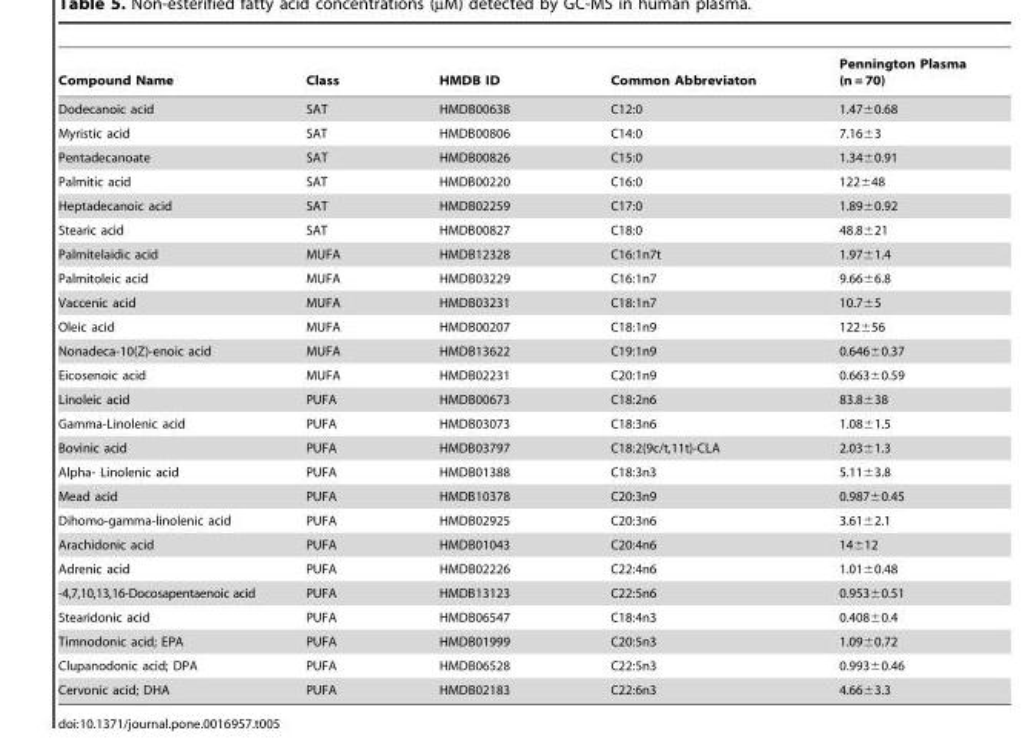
<table><thead><tr><td>Compound Name</td><td>Class</td><td>HMDB ID</td><td>Common Abbreviaton</td><td>Pennington Plasma (n = 70)</td></tr></thead><tbody><tr><td>Dodecanoic acid</td><td>SAT</td><td>HMDB00638</td><td>C12:0</td><td>1.47±0.68</td></tr><tr><td>Myristic acid</td><td>SAT</td><td>HMDB00806</td><td>C14:0</td><td>7.16±3</td></tr><tr><td>Pentadecanoate</td><td>SAT</td><td>HMDB00826</td><td>C15:0</td><td>1.34±0.91</td></tr><tr><td>Palmitic acid</td><td>SAT</td><td>HMDB00220</td><td>C16:0</td><td>122±48</td></tr><tr><td>Heptadecanoic acid</td><td>SAT</td><td>HMDB02259</td><td>C17:0</td><td>1.89±0.92</td></tr><tr><td>Stearic acid</td><td>SAT</td><td>HMDB00827</td><td>C18:0</td><td>48.8±21</td></tr><tr><td>Palmitelaidic acid</td><td>MUFA</td><td>HMDB12328</td><td>C16:1n7t</td><td>1.97±1.4</td></tr><tr><td>Palmitoleic acid</td><td>MUFA</td><td>HMDB03229</td><td>C16:1n7</td><td>9.66±6.8</td></tr><tr><td>Vaccenic acid</td><td>MUFA</td><td>HMDB03231</td><td>C18:1n7</td><td>10.7±5</td></tr><tr><td>Oleic acid</td><td>MUFA</td><td>HMDB00207</td><td>C18:1n9</td><td>122±56</td></tr><tr><td>Nonadeca-10(Z)-enoic acid</td><td>MUFA</td><td>HMDB13622</td><td>C19:1n9</td><td>0.646±0.37</td></tr><tr><td>Eicosenoic acid</td><td>MUFA</td><td>HMDB02231</td><td>C20:1n9</td><td>0.663±0.59</td></tr><tr><td>Linoleic acid</td><td>PUFA</td><td>HMDB00673</td><td>C18:2n6</td><td>83.8±38</td></tr><tr><td>Gamma-Linolenic acid</td><td>PUFA</td><td>HMDB03073</td><td>C18:3n6</td><td>1.08±1.5</td></tr><tr><td>Bovinic acid</td><td>PUFA</td><td>HMDB03797</td><td>C18:2(9c/t,11t)-CLA</td><td>2.03±1.3</td></tr><tr><td>Alpha- Linolenic acid</td><td>PUFA</td><td>HMDB01388</td><td>C18:3n3</td><td>5.11±3.8</td></tr><tr><td>Mead acid</td><td>PUFA</td><td>HMDB10378</td><td>C20:3n9</td><td>0.987±0.45</td></tr><tr><td>Dihomo-gamma-linolenic acid</td><td>PUFA</td><td>HMDB02925</td><td>C20:3n6</td><td>3.61±2.1</td></tr><tr><td>Arachidonic acid</td><td>PUFA</td><td>HMDB01043</td><td>C20:4n6</td><td>14±12</td></tr><tr><td>Adrenic acid</td><td>PUFA</td><td>HMDB02226</td><td>C22:4n6</td><td>1.01±0.48</td></tr><tr><td>-4,7,10,13,16-Docosapentaenoic acid</td><td>PUFA</td><td>HMDB13123</td><td>C22:5n6</td><td>0.953±0.51</td></tr><tr><td>Stearidonic acid</td><td>PUFA</td><td>HMDB06547</td><td>C18:4n3</td><td>0.408±0.4</td></tr><tr><td>Timnodonic acid; EPA</td><td>PUFA</td><td>HMDB01999</td><td>C20:5n3</td><td>1.09±0.72</td></tr><tr><td>Clupanodonic acid; DPA</td><td>PUFA</td><td>HMDB06528</td><td>C22:5n3</td><td>0.993±0.46</td></tr><tr><td>Cervonic acid; DHA</td><td>PUFA</td><td>HMDB02183</td><td>C22:6n3</td><td>4.66±3.3</td></tr></tbody></table>